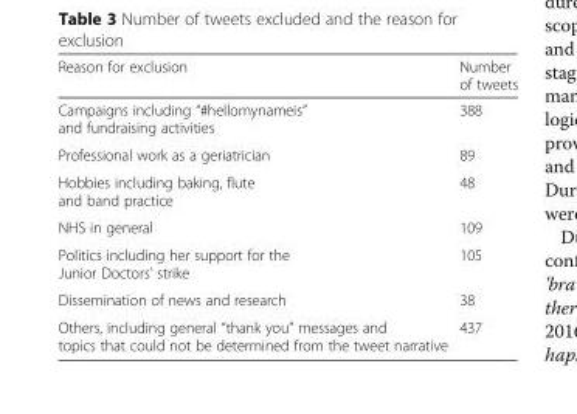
<table><thead><tr><td>Reason for exclusion</td><td>Number of tweets</td></tr></thead><tbody><tr><td>Campaigns including “#hellomynameis” and fundraising activities</td><td>388</td></tr><tr><td>Professional work as a geriatrician</td><td>89</td></tr><tr><td>Hobbies including baking, flute and band practice</td><td>48</td></tr><tr><td>NHS in general</td><td>109</td></tr><tr><td>Politics including her support for the Junior Doctors’ strike</td><td>105</td></tr><tr><td>Dissemination of news and research</td><td>38</td></tr><tr><td>Others, including general “thank you” messages and topics that could not be determined from the tweet narrative</td><td>437</td></tr></tbody></table>